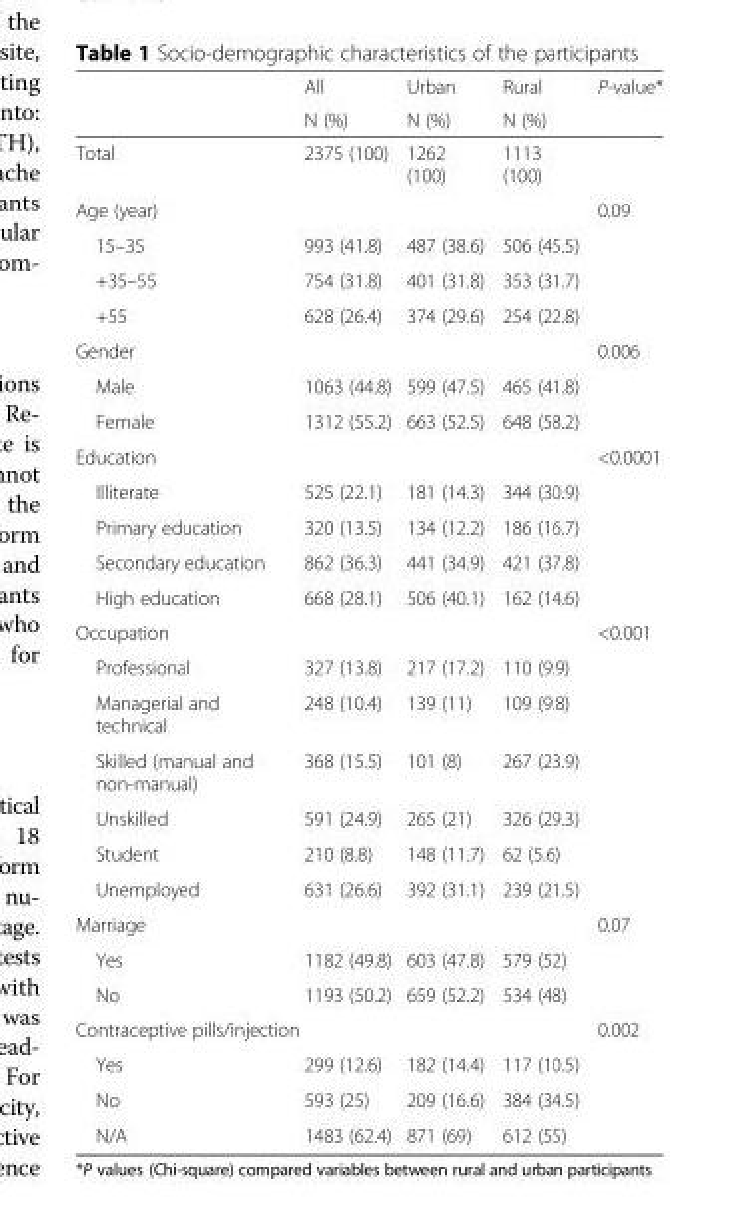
<table><thead><tr><td rowspan="2"></td><td rowspan="2">All N (%)</td><td rowspan="2">Urban N (%)</td><td rowspan="2">Rural N (%)</td><td rowspan="2">P-value*</td></tr><tr></tr></thead><tbody><tr><td>Total</td><td>2375 (100)</td><td>1262 (100)</td><td>1113 (100)</td><td></td></tr><tr><td colspan="4">Age (year)</td><td rowspan="4">0.09</td></tr><tr><td>15–35</td><td>993 (41.8)</td><td>487 (38.6)</td><td>506 (45.5)</td></tr><tr><td>+35–55</td><td>754 (31.8)</td><td>401 (31.8)</td><td>353 (31.7)</td></tr><tr><td>+55</td><td>628 (26.4)</td><td>374 (29.6)</td><td>254 (22.8)</td></tr><tr><td colspan="4">Gender</td><td rowspan="3">0.006</td></tr><tr><td>Male</td><td>1063 (44.8)</td><td>599 (47.5)</td><td>465 (41.8)</td></tr><tr><td>Female</td><td>1312 (55.2)</td><td>663 (52.5)</td><td>648 (58.2)</td></tr><tr><td colspan="4">Education</td><td rowspan="5">&lt;0.0001</td></tr><tr><td>Illiterate</td><td>525 (22.1)</td><td>181 (14.3)</td><td>344 (30.9)</td></tr><tr><td>Primary education</td><td>320 (13.5)</td><td>134 (12.2)</td><td>186 (16.7)</td></tr><tr><td>Secondary education</td><td>862 (36.3)</td><td>441 (34.9)</td><td>421 (37.8)</td></tr><tr><td>High education</td><td>668 (28.1)</td><td>506 (40.1)</td><td>162 (14.6)</td></tr><tr><td colspan="4">Occupation</td><td rowspan="7">&lt;0.001</td></tr><tr><td>Professional</td><td>327 (13.8)</td><td>217 (17.2)</td><td>110 (9.9)</td></tr><tr><td>Managerial and technical</td><td>248 (10.4)</td><td>139 (11)</td><td>109 (9.8)</td></tr><tr><td>Skilled (manual and non-manual)</td><td>368 (15.5)</td><td>101 (8)</td><td>267 (23.9)</td></tr><tr><td>Unskilled</td><td>591 (24.9)</td><td>265 (21)</td><td>326 (29.3)</td></tr><tr><td>Student</td><td>210 (8.8)</td><td>148 (11.7)</td><td>62 (5.6)</td></tr><tr><td>Unemployed</td><td>631 (26.6)</td><td>392 (31.1)</td><td>239 (21.5)</td></tr><tr><td colspan="4">Marriage</td><td rowspan="3">0.07</td></tr><tr><td>Yes</td><td>1182 (49.8)</td><td>603 (47.8)</td><td>579 (52)</td></tr><tr><td>No</td><td>1193 (50.2)</td><td>659 (52.2)</td><td>534 (48)</td></tr><tr><td colspan="4">Contraceptive pills/injection</td><td rowspan="4">0.002</td></tr><tr><td>Yes</td><td>299 (12.6)</td><td>182 (14.4)</td><td>117 (10.5)</td></tr><tr><td>No</td><td>593 (25)</td><td>209 (16.6)</td><td>384 (34.5)</td></tr><tr><td>N/A</td><td>1483 (62.4)</td><td>871 (69)</td><td>612 (55)</td></tr></tbody></table>